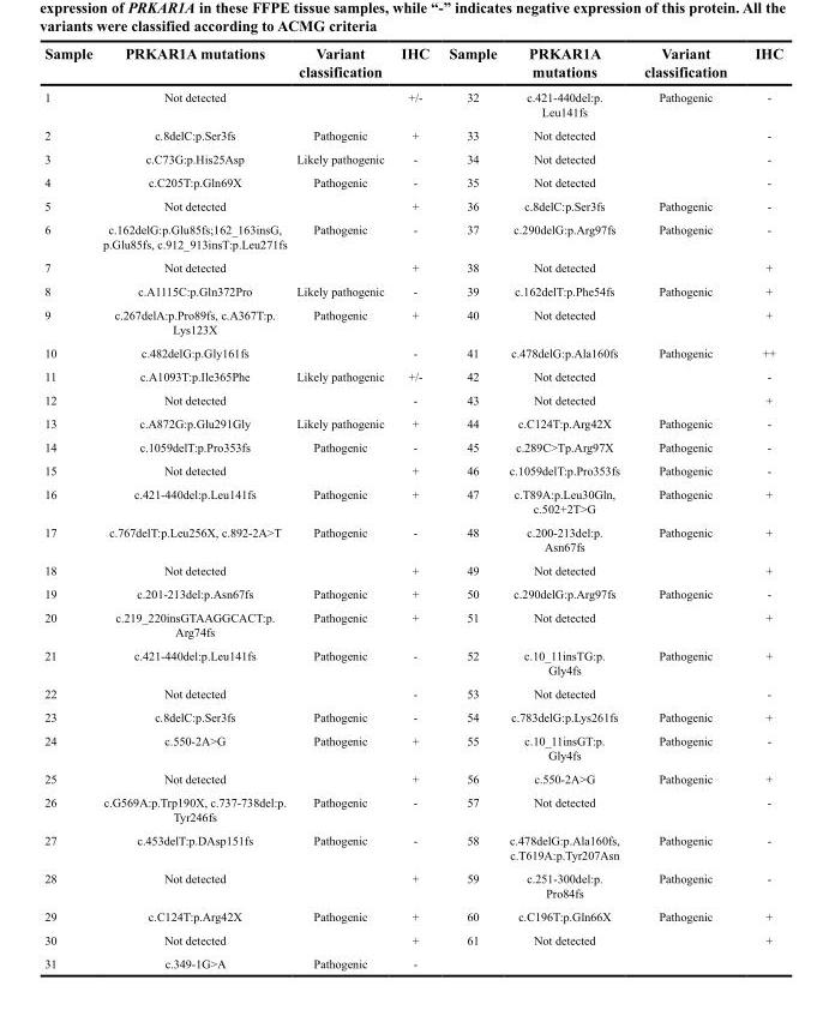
<table><thead><tr><td>Sample</td><td>PRKAR1A mutations</td><td>Variant classification</td><td>IHC</td><td>Sample</td><td>PRKAR1A mutations</td><td>Variant classification</td><td>IHC</td></tr></thead><tbody><tr><td>1</td><td>Not detected</td><td></td><td>+/-</td><td>32</td><td>c.421-440del:p. Leu141fs</td><td>Pathogenic</td><td>-</td></tr><tr><td>2</td><td>c.8delC:p.Ser3fs</td><td>Pathogenic</td><td>+</td><td>33</td><td>Not detected</td><td></td><td>-</td></tr><tr><td>3</td><td>c.C73G:p.His25Asp</td><td>Likely pathogenic</td><td>-</td><td>34</td><td>Not detected</td><td></td><td>-</td></tr><tr><td>4</td><td>c.C205T:p.Gln69X</td><td>Pathogenic</td><td>-</td><td>35</td><td>Not detected</td><td></td><td>-</td></tr><tr><td>5</td><td>Not detected</td><td></td><td>+</td><td>36</td><td>c.8delC:p.Ser3fs</td><td>Pathogenic</td><td>-</td></tr><tr><td>6</td><td>c.162delG:p.Glu85fs;162_163insG, p.Glu85fs, c.912_913insT:p.Leu271fs</td><td>Pathogenic</td><td>-</td><td>37</td><td>c.290delG:p.Arg97fs</td><td>Pathogenic</td><td>-</td></tr><tr><td>7</td><td>Not detected</td><td></td><td>+</td><td>38</td><td>Not detected</td><td></td><td>+</td></tr><tr><td>8</td><td>c.A1115C:p.Gln372Pro</td><td>Likely pathogenic</td><td>-</td><td>39</td><td>c.162delT:p.Phe54fs</td><td>Pathogenic</td><td>+</td></tr><tr><td>9</td><td>c.267delA:p.Pro89fs, c.A367T:p. Lys123X</td><td>Pathogenic</td><td>+</td><td>40</td><td>Not detected</td><td></td><td>+</td></tr><tr><td>10</td><td>c.482delG:p.Gly161fs</td><td></td><td>-</td><td>41</td><td>c.478delG:p.Ala160fs</td><td>Pathogenic</td><td>++</td></tr><tr><td>11</td><td>c.A1093T:p.Ile365Phe</td><td>Likely pathogenic</td><td>+/-</td><td>42</td><td>Not detected</td><td></td><td>-</td></tr><tr><td>12</td><td>Not detected</td><td></td><td>-</td><td>43</td><td>Not detected</td><td></td><td>+</td></tr><tr><td>13</td><td>c.A872G:p.Glu291Gly</td><td>Likely pathogenic</td><td>+</td><td>44</td><td>c.C124T:p.Arg42X</td><td>Pathogenic</td><td>-</td></tr><tr><td>14</td><td>c.1059delT:p.Pro353fs</td><td>Pathogenic</td><td>-</td><td>45</td><td>c.289C&gt;Tp.Arg97X</td><td>Pathogenic</td><td>-</td></tr><tr><td>15</td><td>Not detected</td><td></td><td>+</td><td>46</td><td>c.1059delT:p.Pro353fs</td><td>Pathogenic</td><td>-</td></tr><tr><td>16</td><td>c.421-440del:p.Leu141fs</td><td>Pathogenic</td><td>+</td><td>47</td><td>c.T89A:p.Leu30Gln, c.502+2T&gt;G</td><td>Pathogenic</td><td>+</td></tr><tr><td>17</td><td>c.767delT:p.Leu256X, c.892-2A&gt;T</td><td>Pathogenic</td><td>-</td><td>48</td><td>c.200-213del:p. Asn67fs</td><td>Pathogenic</td><td>+</td></tr><tr><td>18</td><td>Not detected</td><td></td><td>+</td><td>49</td><td>Not detected</td><td></td><td>+</td></tr><tr><td>19</td><td>c.201-213del:p.Asn67fs</td><td>Pathogenic</td><td>+</td><td>50</td><td>c.290delG:p.Arg97fs</td><td>Pathogenic</td><td>-</td></tr><tr><td>20</td><td>c.219_220insGTAAGGCACT:p. Arg74fs</td><td>Pathogenic</td><td>+</td><td>51</td><td>Not detected</td><td></td><td>+</td></tr><tr><td>21</td><td>c.421-440del:p.Leu141fs</td><td>Pathogenic</td><td>-</td><td>52</td><td>c.10_11insTG:p. Gly4fs</td><td>Pathogenic</td><td>+</td></tr><tr><td>22</td><td>Not detected</td><td></td><td>-</td><td>53</td><td>Not detected</td><td></td><td>-</td></tr><tr><td>23</td><td>c.8delC:p.Ser3fs</td><td>Pathogenic</td><td>-</td><td>54</td><td>c.783delG:p.Lys261fs</td><td>Pathogenic</td><td>+</td></tr><tr><td>24</td><td>c.550-2A&gt;G</td><td>Pathogenic</td><td>+</td><td>55</td><td>c.10_11insGT:p. Gly4fs</td><td>Pathogenic</td><td>-</td></tr><tr><td>25</td><td>Not detected</td><td></td><td>+</td><td>56</td><td>c.550-2A&gt;G</td><td>Pathogenic</td><td>+</td></tr><tr><td>26</td><td>c.G569A:p.Trp190X, c.737-738del:p. Tyr246fs</td><td>Pathogenic</td><td>-</td><td>57</td><td>Not detected</td><td></td><td>-</td></tr><tr><td>27</td><td>c.453delT:p.DAsp151fs</td><td>Pathogenic</td><td>-</td><td>58</td><td>c.478delG:p.Ala160fs, c.T619A:p.Tyr207Asn</td><td>Pathogenic</td><td>-</td></tr><tr><td>28</td><td>Not detected</td><td></td><td>+</td><td>59</td><td>c.251-300del:p. Pro84fs</td><td>Pathogenic</td><td>-</td></tr><tr><td>29</td><td>c.C124T:p.Arg42X</td><td>Pathogenic</td><td>+</td><td>60</td><td>c.C196T:p.Gln66X</td><td>Pathogenic</td><td>+</td></tr><tr><td>30</td><td>Not detected</td><td></td><td>+</td><td>61</td><td>Not detected</td><td></td><td>+</td></tr><tr><td>31</td><td>c.349-1G&gt;A</td><td>Pathogenic</td><td>-</td><td></td><td></td><td></td><td></td></tr></tbody></table>